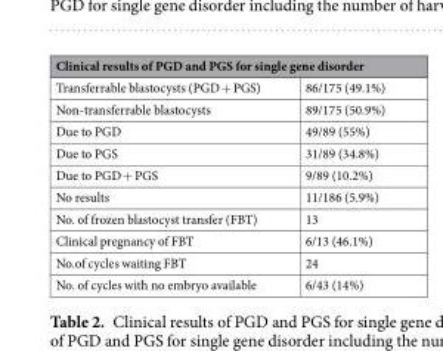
<table><thead><tr><td colspan="2">Clinical results of PGD and PGS for single gene disorder</td></tr><tr><td>Transferrable blastocysts (PGD + PGS)</td><td>86/175 (49.1%)</td></tr></thead><tbody><tr><td>Non-transferrable blastocysts</td><td>89/175 (50.9%)</td></tr><tr><td>Due to PGD</td><td>49/89 (55%)</td></tr><tr><td>Due to PGS</td><td>31/89 (34.8%)</td></tr><tr><td>Due to PGD + PGS</td><td>9/89 (10.2%)</td></tr><tr><td>No results</td><td>11/186 (5.9%)</td></tr><tr><td>No. of frozen blastocyst transfer (FBT)</td><td>13</td></tr><tr><td>Clinical pregnancy of FBT</td><td>6/13 (46.1%)</td></tr><tr><td>No.of cycles waiting FBT</td><td>24</td></tr><tr><td>No. of cycles with no embryo available</td><td>6/43 (14%)</td></tr></tbody></table>